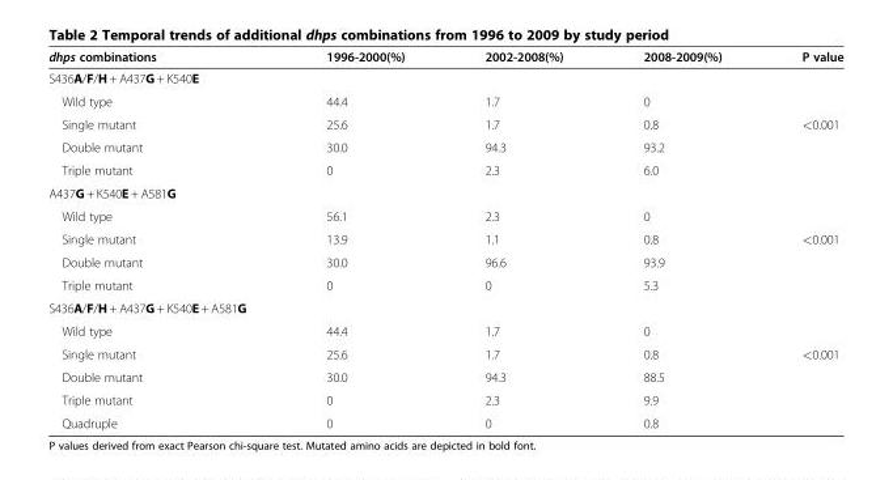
<table><thead><tr><td>dhps combinations</td><td>1996-2000(%)</td><td>2002-2008(%)</td><td>2008-2009(%)</td><td>P value</td></tr></thead><tbody><tr><td colspan="5">S436A/F/H + A437G + K540E</td></tr><tr><td>Wild type</td><td>44.4</td><td>1.7</td><td>0</td><td></td></tr><tr><td>Single mutant</td><td>25.6</td><td>1.7</td><td>0.8</td><td>&lt;0.001</td></tr><tr><td>Double mutant</td><td>30.0</td><td>94.3</td><td>93.2</td><td></td></tr><tr><td>Triple mutant</td><td>0</td><td>2.3</td><td>6.0</td><td></td></tr><tr><td colspan="5">A437G + K540E + A581G</td></tr><tr><td>Wild type</td><td>56.1</td><td>2.3</td><td>0</td><td></td></tr><tr><td>Single mutant</td><td>13.9</td><td>1.1</td><td>0.8</td><td>&lt;0.001</td></tr><tr><td>Double mutant</td><td>30.0</td><td>96.6</td><td>93.9</td><td></td></tr><tr><td>Triple mutant</td><td>0</td><td>0</td><td>5.3</td><td></td></tr><tr><td colspan="5">S436A/F/H + A437G + K540E + A581G</td></tr><tr><td>Wild type</td><td>44.4</td><td>1.7</td><td>0</td><td></td></tr><tr><td>Single mutant</td><td>25.6</td><td>1.7</td><td>0.8</td><td>&lt;0.001</td></tr><tr><td>Double mutant</td><td>30.0</td><td>94.3</td><td>88.5</td><td></td></tr><tr><td>Triple mutant</td><td>0</td><td>2.3</td><td>9.9</td><td></td></tr><tr><td>Quadruple</td><td>0</td><td>0</td><td>0.8</td><td></td></tr></tbody></table>